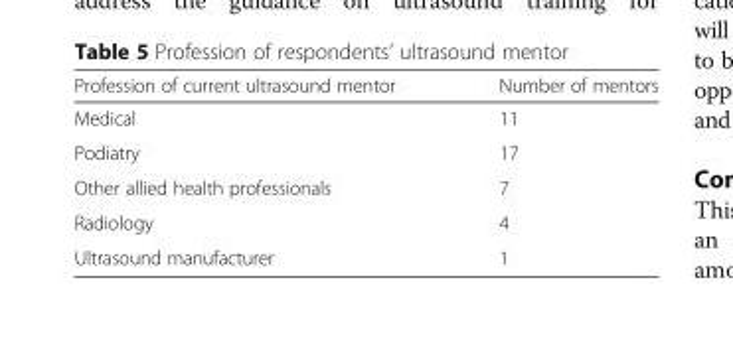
<table><thead><tr><td>Profession of current ultrasound mentor</td><td>Number of mentors</td></tr></thead><tbody><tr><td>Medical</td><td>11</td></tr><tr><td>Podiatry</td><td>17</td></tr><tr><td>Other allied health professionals</td><td>7</td></tr><tr><td>Radiology</td><td>4</td></tr><tr><td>Ultrasound manufacturer</td><td>1</td></tr></tbody></table>